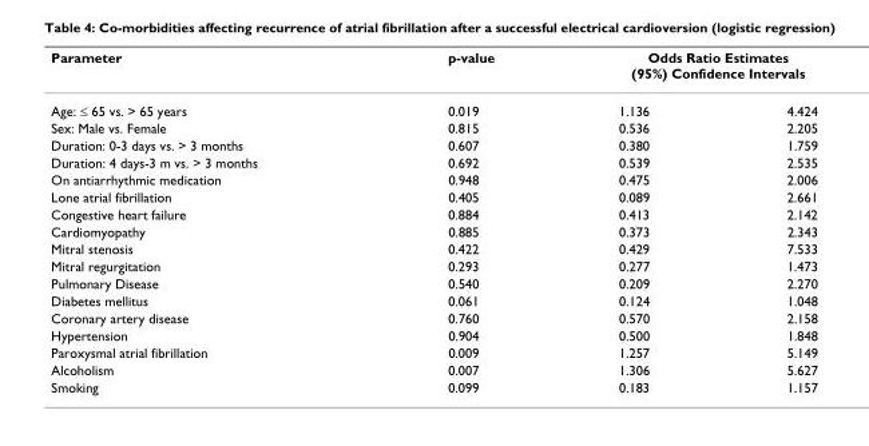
<table><thead><tr><td rowspan="2">Parameter Age: ≤ 65 vs. &gt; 65 years</td><td rowspan="2">p-value 0.019</td><td colspan="2">Odds Ratio Estimates (95%) Confidence Intervals</td></tr><tr><td>1.136</td><td>4.424</td></tr></thead><tbody><tr><td>Sex: Male vs. Female</td><td>0.815</td><td>0.536</td><td>2.205</td></tr><tr><td>Duration: 0-3 days vs. &gt; 3 months</td><td>0.607</td><td>0.380</td><td>1.759</td></tr><tr><td>Duration: 4 days-3 m vs. &gt; 3 months</td><td>0.692</td><td>0.539</td><td>2.535</td></tr><tr><td>On antiarrhythmic medication</td><td>0.948</td><td>0.475</td><td>2.006</td></tr><tr><td>Lone atrial fibrillation</td><td>0.405</td><td>0.089</td><td>2.661</td></tr><tr><td>Congestive heart failure</td><td>0.884</td><td>0.413</td><td>2.142</td></tr><tr><td>Cardiomyopathy</td><td>0.885</td><td>0.373</td><td>2.343</td></tr><tr><td>Mitral stenosis</td><td>0.422</td><td>0.429</td><td>7.533</td></tr><tr><td>Mitral regurgitation</td><td>0.293</td><td>0.277</td><td>1.473</td></tr><tr><td>Pulmonary Disease</td><td>0.540</td><td>0.209</td><td>2.270</td></tr><tr><td>Diabetes mellitus</td><td>0.061</td><td>0.124</td><td>1.048</td></tr><tr><td>Coronary artery disease</td><td>0.760</td><td>0.570</td><td>2.158</td></tr><tr><td>Hypertension</td><td>0.904</td><td>0.500</td><td>1.848</td></tr><tr><td>Paroxysmal atrial fibrillation</td><td>0.009</td><td>1.257</td><td>5.149</td></tr><tr><td>Alcoholism</td><td>0.007</td><td>1.306</td><td>5.627</td></tr><tr><td>Smoking</td><td>0.099</td><td>0.183</td><td>1.157</td></tr></tbody></table>